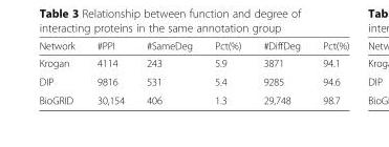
<table><thead><tr><td>Network</td><td>#PPI</td><td>#SameDeg</td><td>Pct(%)</td><td>#DiffDeg</td><td>Pct(%)</td></tr></thead><tbody><tr><td>Krogan</td><td>4114</td><td>243</td><td>5.9</td><td>3871</td><td>94.1</td></tr><tr><td>DIP</td><td>9816</td><td>531</td><td>5.4</td><td>9285</td><td>94.6</td></tr><tr><td>BioGRID</td><td>30,154</td><td>406</td><td>1.3</td><td>29,748</td><td>98.7</td></tr></tbody></table>